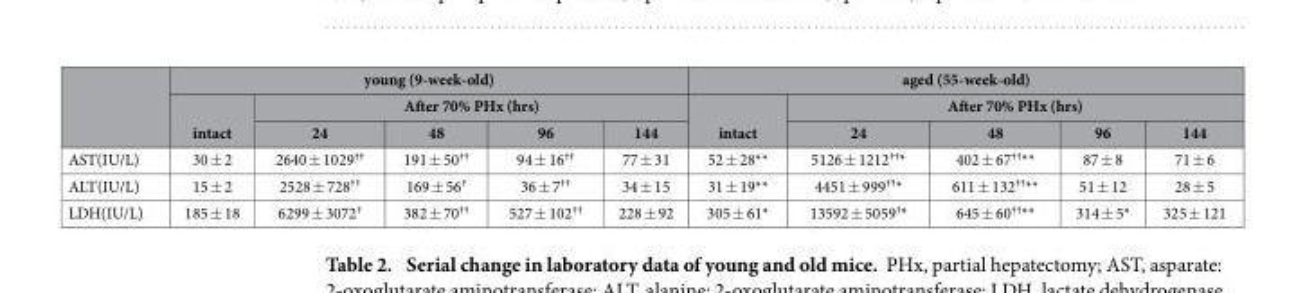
<table><thead><tr><td rowspan="3"></td><td colspan="5">young (9-week-old)</td><td colspan="5">aged (55-week-old)</td></tr><tr><td rowspan="2">intact</td><td colspan="4">After 70% PHx (hrs)</td><td rowspan="2">intact</td><td colspan="4">After 70% PHx (hrs)</td></tr><tr><td>24</td><td>48</td><td>96</td><td>144</td><td>24</td><td>48</td><td>96</td><td>144</td></tr></thead><tbody><tr><td>AST(IU/L)</td><td>30 ± 2</td><td>2640 ± 1029<sup>††</sup></td><td>191 ± 50<sup>††</sup></td><td>94 ± 16<sup>††</sup></td><td>77 ± 31</td><td>52 ± 28**</td><td>5126 ± 1212<sup>††</sup>*</td><td>402 ± 67<sup>††</sup>**</td><td>87 ± 8</td><td>71 ± 6</td></tr><tr><td>ALT(IU/L)</td><td>15 ± 2</td><td>2528 ± 728<sup>††</sup></td><td>169 ± 56<sup>†</sup></td><td>36 ± 7<sup>††</sup></td><td>34 ± 15</td><td>31 ± 19**</td><td>4451 ± 999<sup>††</sup>*</td><td>611 ± 132<sup>††</sup>**</td><td>51 ± 12</td><td>28 ± 5</td></tr><tr><td>LDH(IU/L)</td><td>185 ± 18</td><td>6299 ± 3072<sup>†</sup></td><td>382 ± 70<sup>††</sup></td><td>527 ± 102<sup>††</sup></td><td>228 ± 92</td><td>305 ± 61*</td><td>13592 ± 5059<sup>†</sup>*</td><td>645 ± 60<sup>††</sup>**</td><td>314 ± 5*</td><td>325 ± 121</td></tr></tbody></table>